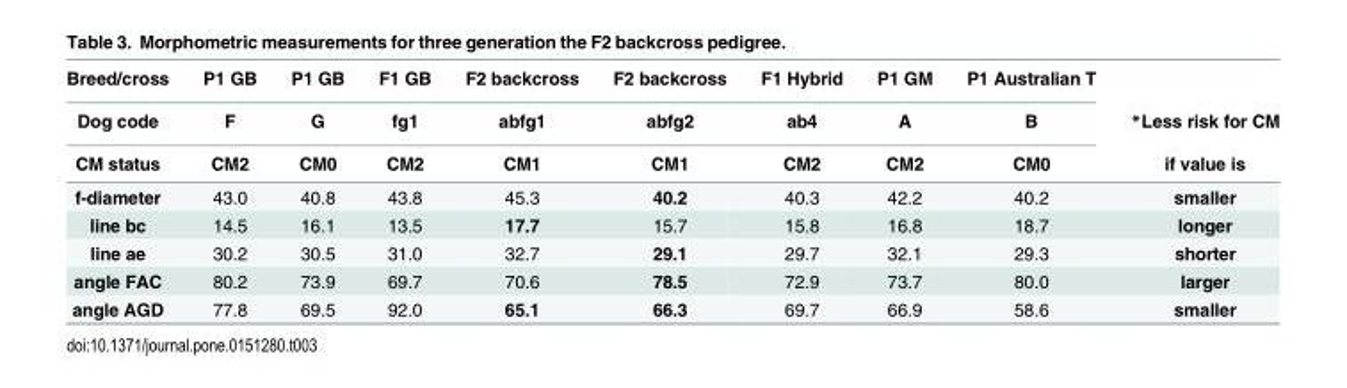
<table><thead><tr><td rowspan="3">Breed/cross Dog code CM status</td><td rowspan="3">P1 GB F CM2</td><td rowspan="3">P1 GB G CM0</td><td rowspan="3">F1 GB fg1 CM2</td><td rowspan="3">F2 backcross abfg1 CM1</td><td rowspan="3">F2 backcross abfg2 CM1</td><td rowspan="3">F1 Hybrid ab4 CM2</td><td rowspan="3">P1 GM A CM2</td><td rowspan="3">P1 Australian T B CM0</td><td rowspan="3">*Less risk for CM if value is</td></tr><tr></tr><tr></tr></thead><tbody><tr><td>f-diameter</td><td>43.0</td><td>40.8</td><td>43.8</td><td>45.3</td><td>40.2</td><td>40.3</td><td>42.2</td><td>40.2</td><td>smaller</td></tr><tr><td>line bc</td><td>14.5</td><td>16.1</td><td>13.5</td><td>17.7</td><td>15.7</td><td>15.8</td><td>16.8</td><td>18.7</td><td>longer</td></tr><tr><td>line ae</td><td>30.2</td><td>30.5</td><td>31.0</td><td>32.7</td><td>29.1</td><td>29.7</td><td>32.1</td><td>29.3</td><td>shorter</td></tr><tr><td>angle FAC</td><td>80.2</td><td>73.9</td><td>69.7</td><td>70.6</td><td>78.5</td><td>72.9</td><td>73.7</td><td>80.0</td><td>larger</td></tr><tr><td>angle AGD</td><td>77.8</td><td>69.5</td><td>92.0</td><td>65.1</td><td>66.3</td><td>69.7</td><td>66.9</td><td>58.6</td><td>smaller</td></tr></tbody></table>